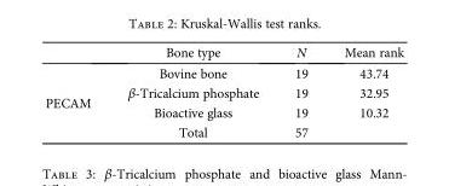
<table><thead><tr><td></td><td>Bone type</td><td>N</td><td>Mean rank</td></tr></thead><tbody><tr><td rowspan="4">PECAM</td><td>Bovine bone</td><td>19</td><td>43.74</td></tr><tr><td>β-Tricalcium phosphate</td><td>19</td><td>32.95</td></tr><tr><td>Bioactive glass</td><td>19</td><td>10.32</td></tr><tr><td>Total</td><td>57</td><td></td></tr></tbody></table>